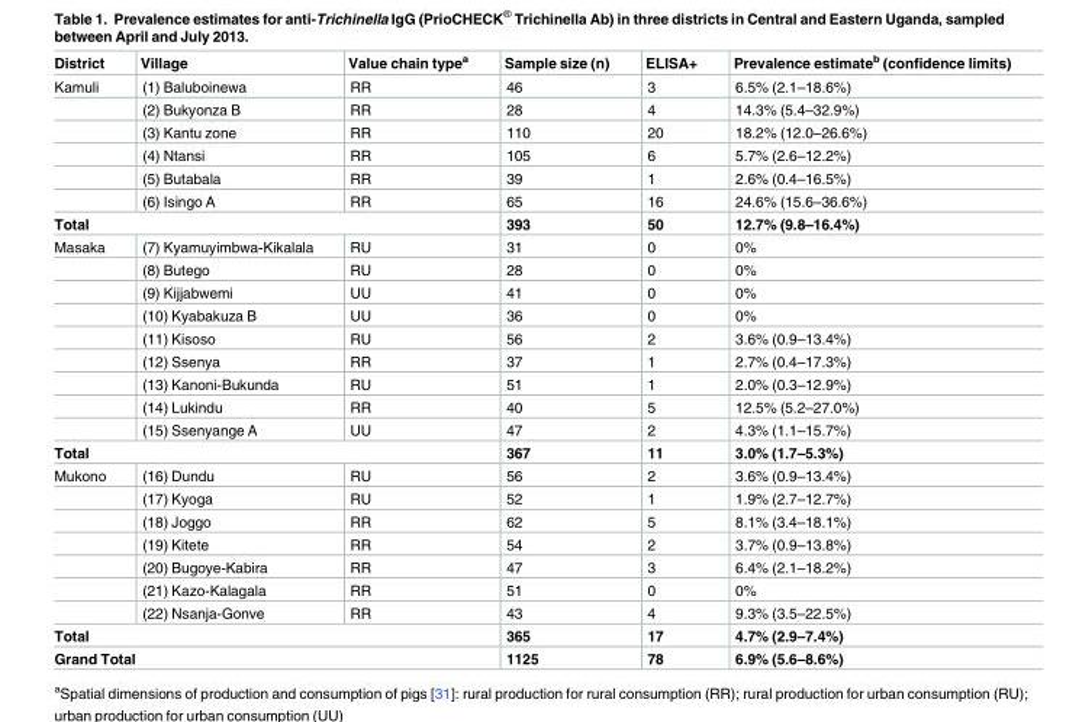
<table><thead><tr><td>District</td><td>Village</td><td>Value chain type<sup>a</sup></td><td>Sample size (n)</td><td>ELISA+</td><td>Prevalence estimate<sup>b</sup> (confidence limits)</td></tr></thead><tbody><tr><td rowspan="6">Kamuli</td><td>(1) Baluboinewa</td><td>RR</td><td>46</td><td>3</td><td>6.5% (2.1–18.6%)</td></tr><tr><td>(2) Bukyonza B</td><td>RR</td><td>28</td><td>4</td><td>14.3% (5.4–32.9%)</td></tr><tr><td>(3) Kantu zone</td><td>RR</td><td>110</td><td>20</td><td>18.2% (12.0–26.6%)</td></tr><tr><td>(4) Ntansi</td><td>RR</td><td>105</td><td>6</td><td>5.7% (2.6–12.2%)</td></tr><tr><td>(5) Butabala</td><td>RR</td><td>39</td><td>1</td><td>2.6% (0.4–16.5%)</td></tr><tr><td>(6) Isingo A</td><td>RR</td><td>65</td><td>16</td><td>24.6% (15.6–36.6%)</td></tr><tr><td colspan="3">Total</td><td>393</td><td>50</td><td>12.7% (9.8–16.4%)</td></tr><tr><td rowspan="9">Masaka</td><td>(7) Kyamuyimbwa-Kikalala</td><td>RU</td><td>31</td><td>0</td><td>0%</td></tr><tr><td>(8) Butego</td><td>RU</td><td>28</td><td>0</td><td>0%</td></tr><tr><td>(9) Kijjabwemi</td><td>UU</td><td>41</td><td>0</td><td>0%</td></tr><tr><td>(10) Kyabakuza B</td><td>UU</td><td>36</td><td>0</td><td>0%</td></tr><tr><td>(11) Kisoso</td><td>RU</td><td>56</td><td>2</td><td>3.6% (0.9–13.4%)</td></tr><tr><td>(12) Ssenya</td><td>RR</td><td>37</td><td>1</td><td>2.7% (0.4–17.3%)</td></tr><tr><td>(13) Kanoni-Bukunda</td><td>RU</td><td>51</td><td>1</td><td>2.0% (0.3–12.9%)</td></tr><tr><td>(14) Lukindu</td><td>RR</td><td>40</td><td>5</td><td>12.5% (5.2–27.0%)</td></tr><tr><td>(15) Ssenyange A</td><td>UU</td><td>47</td><td>2</td><td>4.3% (1.1–15.7%)</td></tr><tr><td colspan="3">Total</td><td>367</td><td>11</td><td>3.0% (1.7–5.3%)</td></tr><tr><td rowspan="7">Mukono</td><td>(16) Dundu</td><td>RU</td><td>56</td><td>2</td><td>3.6% (0.9–13.4%)</td></tr><tr><td>(17) Kyoga</td><td>RU</td><td>52</td><td>1</td><td>1.9% (2.7–12.7%)</td></tr><tr><td>(18) Joggo</td><td>RR</td><td>62</td><td>5</td><td>8.1% (3.4–18.1%)</td></tr><tr><td>(19) Kitete</td><td>RR</td><td>54</td><td>2</td><td>3.7% (0.9–13.8%)</td></tr><tr><td>(20) Bugoye-Kabira</td><td>RR</td><td>47</td><td>3</td><td>6.4% (2.1–18.2%)</td></tr><tr><td>(21) Kazo-Kalagala</td><td>RR</td><td>51</td><td>0</td><td>0%</td></tr><tr><td>(22) Nsanja-Gonve</td><td>RR</td><td>43</td><td>4</td><td>9.3% (3.5–22.5%)</td></tr><tr><td colspan="3">Total</td><td>365</td><td>17</td><td>4.7% (2.9–7.4%)</td></tr><tr><td colspan="3">Grand Total</td><td>1125</td><td>78</td><td>6.9% (5.6–8.6%)</td></tr></tbody></table>